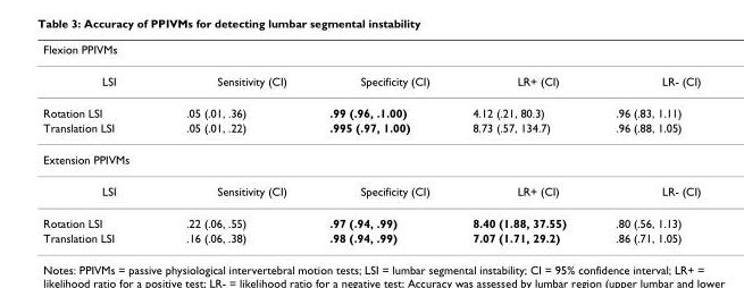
<table><thead><tr><td colspan="5">Flexion PPIVMs</td></tr><tr><td>LSI</td><td>Sensitivity (CI)</td><td>Specificity (CI)</td><td>LR+ (CI)</td><td>LR- (CI)</td></tr></thead><tbody><tr><td>Rotation LSI</td><td>.05 (.01, .36)</td><td>.99 (.96, .1.00)</td><td>4.12 (.21, 80.3)</td><td>.96 (.83, 1.11)</td></tr><tr><td>Translation LSI</td><td>.05 (.01, .22)</td><td>.995 (.97, 1.00)</td><td>8.73 (.57, 134.7)</td><td>.96 (.88, 1.05)</td></tr><tr><td colspan="5">Extension PPIVMs</td></tr><tr><td>LSI</td><td>Sensitivity (CI)</td><td>Specificity (CI)</td><td>LR+ (CI)</td><td>LR- (CI)</td></tr><tr><td>Rotation LSI</td><td>.22 (.06, .55)</td><td>.97 (.94, .99)</td><td>8.40 (1.88, 37.55)</td><td>.80 (.56, 1.13)</td></tr><tr><td>Translation LSI</td><td>.16 (.06, .38)</td><td>.98 (.94, .99)</td><td>7.07 (1.71, 29.2)</td><td>.86 (.71, 1.05)</td></tr></tbody></table>